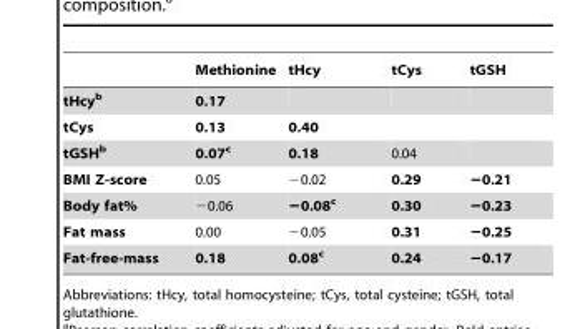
<table><thead><tr><td></td><td>Methionine</td><td>tHcy</td><td>tCys</td><td>tGSH</td></tr></thead><tbody><tr><td>tHcyb</td><td>0.17</td><td></td><td></td><td></td></tr><tr><td>tCys</td><td>0.13</td><td>0.40</td><td></td><td></td></tr><tr><td>tGSHb</td><td>0.07c</td><td>0.18</td><td>0.04</td><td></td></tr><tr><td>BMI Z-score</td><td>0.05</td><td>−0.02</td><td>0.29</td><td>−0.21</td></tr><tr><td>Body fat%</td><td>−0.06</td><td>−0.08c</td><td>0.30</td><td>−0.23</td></tr><tr><td>Fat mass</td><td>0.00</td><td>−0.05</td><td>0.31</td><td>−0.25</td></tr><tr><td>Fat-free-mass</td><td>0.18</td><td>0.08c</td><td>0.24</td><td>−0.17</td></tr></tbody></table>